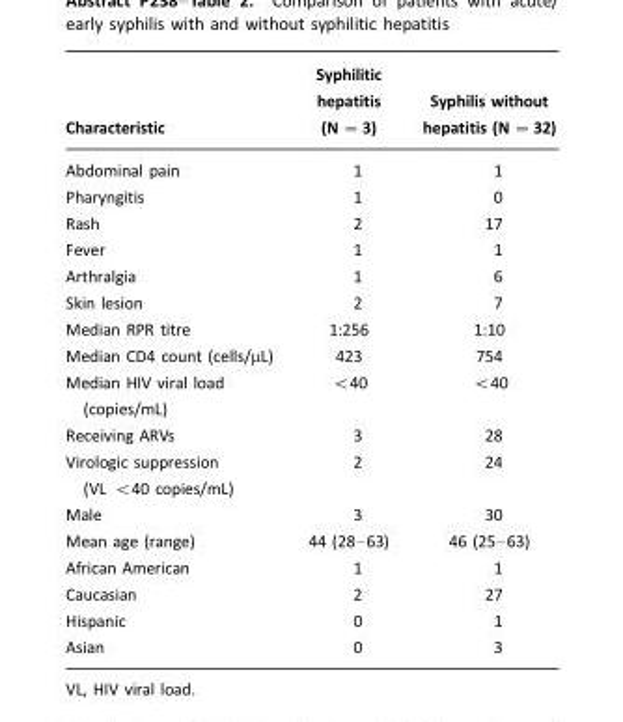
<table><thead><tr><td>Characteristic</td><td>Syphilitic hepatitis (N =3)</td><td>Syphilis without hepatitis (N =32)</td></tr></thead><tbody><tr><td>Abdominal pain</td><td>1</td><td>1</td></tr><tr><td>Pharyngitis</td><td>1</td><td>0</td></tr><tr><td>Rash</td><td>2</td><td>17</td></tr><tr><td>Fever</td><td>1</td><td>1</td></tr><tr><td>Arthralgia</td><td>1</td><td>6</td></tr><tr><td>Skin lesion</td><td>2</td><td>7</td></tr><tr><td>Median RPR titre</td><td>1:256</td><td>1:10</td></tr><tr><td>Median CD4 count (cells/µL)</td><td>423</td><td>754</td></tr><tr><td>Median HIV viral load (copies/mL)</td><td>&lt;40</td><td>&lt;40</td></tr><tr><td>Receiving ARVs</td><td>3</td><td>28</td></tr><tr><td>Virologic suppression (VL &lt;40 copies/mL)</td><td>2</td><td>24</td></tr><tr><td>Male</td><td>3</td><td>30</td></tr><tr><td>Mean age (range)</td><td>44 (28–63)</td><td>46 (25–63)</td></tr><tr><td>African American</td><td>1</td><td>1</td></tr><tr><td>Caucasian</td><td>2</td><td>27</td></tr><tr><td>Hispanic</td><td>0</td><td>1</td></tr><tr><td>Asian</td><td>0</td><td>3</td></tr></tbody></table>